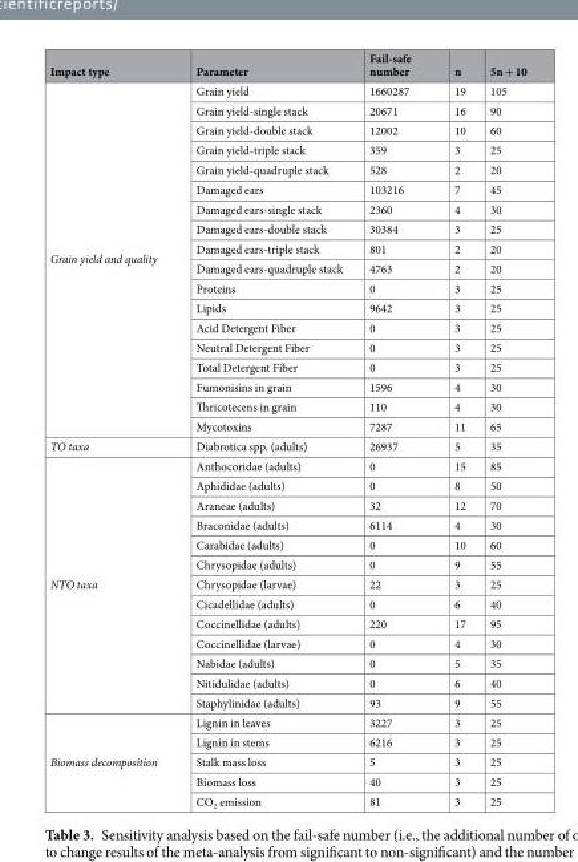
<table><thead><tr><td>Impact type</td><td>Parameter</td><td>Fail-safe number</td><td>n</td><td>5n + 10</td></tr></thead><tbody><tr><td rowspan="18">Grain yield and quality</td><td>Grain yield</td><td>1660287</td><td>19</td><td>105</td></tr><tr><td>Grain yield-single stack</td><td>20671</td><td>16</td><td>90</td></tr><tr><td>Grain yield-double stack</td><td>12002</td><td>10</td><td>60</td></tr><tr><td>Grain yield-triple stack</td><td>359</td><td>3</td><td>25</td></tr><tr><td>Grain yield-quadruple stack</td><td>528</td><td>2</td><td>20</td></tr><tr><td>Damaged ears</td><td>103216</td><td>7</td><td>45</td></tr><tr><td>Damaged ears-single stack</td><td>2360</td><td>4</td><td>30</td></tr><tr><td>Damaged ears-double stack</td><td>30384</td><td>3</td><td>25</td></tr><tr><td>Damaged ears-triple stack</td><td>801</td><td>2</td><td>20</td></tr><tr><td>Damaged ears-quadruple stack</td><td>4763</td><td>2</td><td>20</td></tr><tr><td>Proteins</td><td>0</td><td>3</td><td>25</td></tr><tr><td>Lipids</td><td>9642</td><td>3</td><td>25</td></tr><tr><td>Acid Detergent Fiber</td><td>0</td><td>3</td><td>25</td></tr><tr><td>Neutral Detergent Fiber</td><td>0</td><td>3</td><td>25</td></tr><tr><td>Total Detergent Fiber</td><td>0</td><td>3</td><td>25</td></tr><tr><td>Fumonisins in grain</td><td>1596</td><td>4</td><td>30</td></tr><tr><td>Thricotecens in grain</td><td>110</td><td>4</td><td>30</td></tr><tr><td>Mycotoxins</td><td>7287</td><td>11</td><td>65</td></tr><tr><td>TO taxa</td><td>Diabrotica spp. (adults)</td><td>26937</td><td>5</td><td>35</td></tr><tr><td rowspan="13">NTO taxa</td><td>Anthocoridae (adults)</td><td>0</td><td>15</td><td>85</td></tr><tr><td>Aphididae (adults)</td><td>0</td><td>8</td><td>50</td></tr><tr><td>Araneae (adults)</td><td>32</td><td>12</td><td>70</td></tr><tr><td>Braconidae (adults)</td><td>6114</td><td>4</td><td>30</td></tr><tr><td>Carabidae (adults)</td><td>0</td><td>10</td><td>60</td></tr><tr><td>Chrysopidae (adults)</td><td>0</td><td>9</td><td>55</td></tr><tr><td>Chrysopidae (larvae)</td><td>22</td><td>3</td><td>25</td></tr><tr><td>Cicadellidae (adults)</td><td>0</td><td>6</td><td>40</td></tr><tr><td>Coccinellidae (adults)</td><td>220</td><td>17</td><td>95</td></tr><tr><td>Coccinellidae (larvae)</td><td>0</td><td>4</td><td>30</td></tr><tr><td>Nabidae (adults)</td><td>0</td><td>5</td><td>35</td></tr><tr><td>Nitidulidae (adults)</td><td>0</td><td>6</td><td>40</td></tr><tr><td>Staphylinidae (adults)</td><td>93</td><td>9</td><td>55</td></tr><tr><td rowspan="5">Biomass decomposition</td><td>Lignin in leaves</td><td>3227</td><td>3</td><td>25</td></tr><tr><td>Lignin in stems</td><td>6216</td><td>3</td><td>25</td></tr><tr><td>Stalk mass loss</td><td>5</td><td>3</td><td>25</td></tr><tr><td>Biomass loss</td><td>40</td><td>3</td><td>25</td></tr><tr><td>CO<sub>2</sub> emission</td><td>81</td><td>3</td><td>25</td></tr></tbody></table>